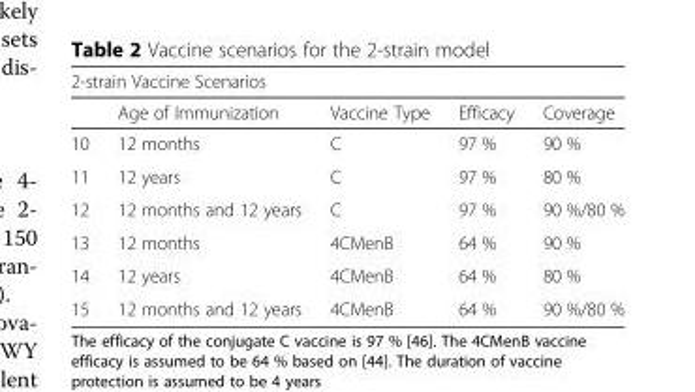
<table><thead><tr><td colspan="5">2-strain Vaccine Scenarios</td></tr><tr><td></td><td>Age of Immunization</td><td>Vaccine Type</td><td>Efficacy</td><td>Coverage</td></tr></thead><tbody><tr><td>10</td><td>12 months</td><td>C</td><td>97 %</td><td>90 %</td></tr><tr><td>11</td><td>12 years</td><td>C</td><td>97 %</td><td>80 %</td></tr><tr><td>12</td><td>12 months and 12 years</td><td>C</td><td>97 %</td><td>90 %/80 %</td></tr><tr><td>13</td><td>12 months</td><td>4CMenB</td><td>64 %</td><td>90 %</td></tr><tr><td>14</td><td>12 years</td><td>4CMenB</td><td>64 %</td><td>80 %</td></tr><tr><td>15</td><td>12 months and 12 years</td><td>4CMenB</td><td>64 %</td><td>90 %/80 %</td></tr></tbody></table>